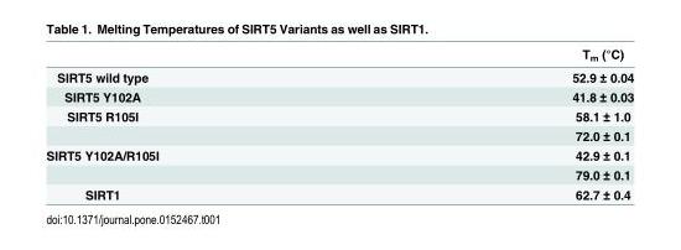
<table><thead><tr><td></td><td>T<sub>m</sub> (°C)</td></tr></thead><tbody><tr><td>SIRT5 wild type</td><td>52.9 ± 0.04</td></tr><tr><td>SIRT5 Y102A</td><td>41.8 ± 0.03</td></tr><tr><td rowspan="2">SIRT5 R105I</td><td>58.1 ± 1.0</td></tr><tr><td>72.0 ± 0.1</td></tr><tr><td rowspan="2">SIRT5 Y102A/R105I</td><td>42.9 ± 0.1</td></tr><tr><td>79.0 ± 0.1</td></tr><tr><td>SIRT1</td><td>62.7 ± 0.4</td></tr></tbody></table>